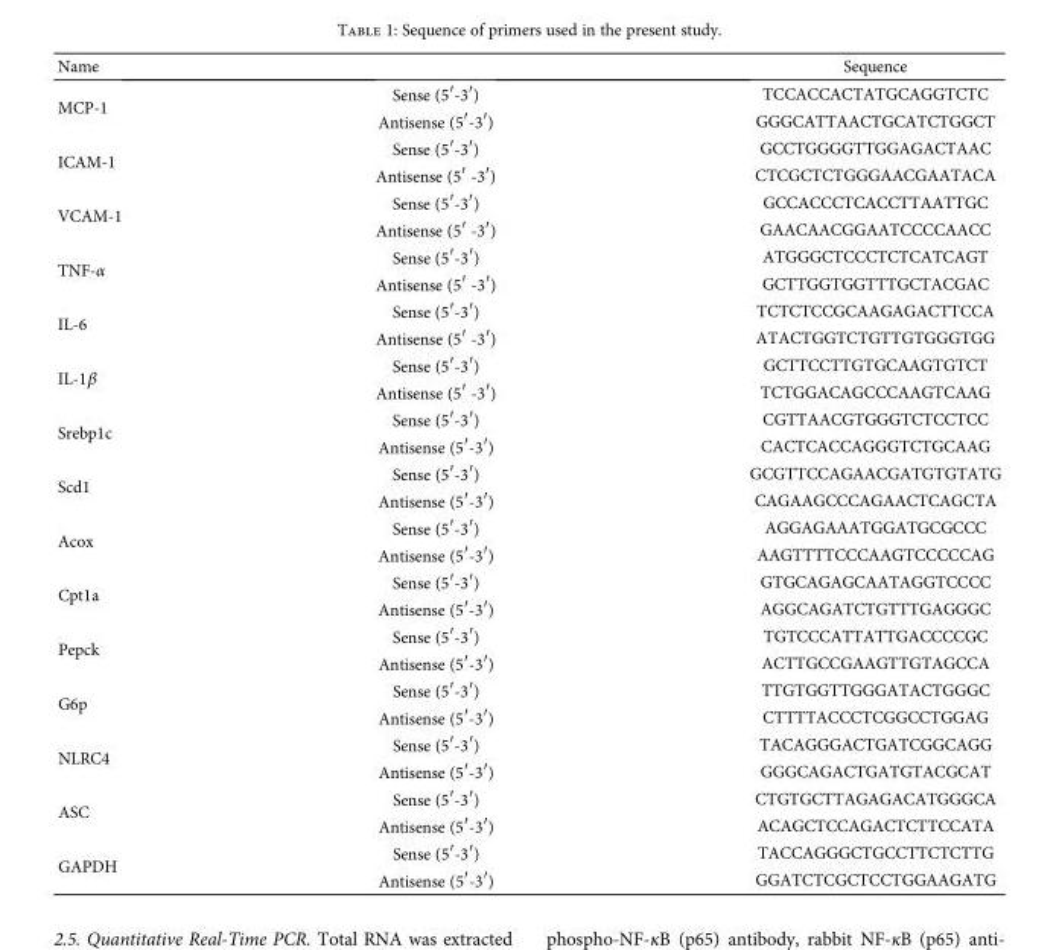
<table><thead><tr><td>Name</td><td></td><td>Sequence</td></tr></thead><tbody><tr><td rowspan="2">MCP-1</td><td>Sense (5′-3′)</td><td>TCCACCACTATGCAGGTCTC</td></tr><tr><td>Antisense (5′-3′)</td><td>GGGCATTAACTGCATCTGGCT</td></tr><tr><td rowspan="2">ICAM-1</td><td>Sense (5′-3′)</td><td>GCCTGGGGTTGGAGACTAAC</td></tr><tr><td>Antisense (5′ -3′)</td><td>CTCGCTCTGGGAACGAATACA</td></tr><tr><td rowspan="2">VCAM-1</td><td>Sense (5′-3′)</td><td>GCCACCCTCACCTTAATTGC</td></tr><tr><td>Antisense (5′ -3′)</td><td>GAACAACGGAATCCCCAACC</td></tr><tr><td rowspan="2">TNF-α</td><td>Sense (5′-3′)</td><td>ATGGGCTCCCTCTCATCAGT</td></tr><tr><td>Antisense (5′ -3′)</td><td>GCTTGGTGGTTTGCTACGAC</td></tr><tr><td rowspan="2">IL-6</td><td>Sense (5′-3′)</td><td>TCTCTCCGCAAGAGACTTCCA</td></tr><tr><td>Antisense (5′ -3′)</td><td>ATACTGGTCTGTTGTGGGTGG</td></tr><tr><td rowspan="2">IL-1β</td><td>Sense (5′-3′)</td><td>GCTTCCTTGTGCAAGTGTCT</td></tr><tr><td>Antisense (5′ -3′)</td><td>TCTGGACAGCCCAAGTCAAG</td></tr><tr><td rowspan="2">Srebp1c</td><td>Sense (5′-3′)</td><td>CGTTAACGTGGGTCTCCTCC</td></tr><tr><td>Antisense (5′-3′)</td><td>CACTCACCAGGGTCTGCAAG</td></tr><tr><td rowspan="2">Scd1</td><td>Sense (5′-3′)</td><td>GCGTTCCAGAACGATGTGTATG</td></tr><tr><td>Antisense (5′-3′)</td><td>CAGAAGCCCAGAACTCAGCTA</td></tr><tr><td rowspan="2">Acox</td><td>Sense (5′-3′)</td><td>AGGAGAAATGGATGCGCCC</td></tr><tr><td>Antisense (5′-3′)</td><td>AAGTTTTCCCAAGTCCCCCAG</td></tr><tr><td rowspan="2">Cpt1a</td><td>Sense (5′-3′)</td><td>GTGCAGAGCAATAGGTCCCC</td></tr><tr><td>Antisense (5′-3′)</td><td>AGGCAGATCTGTTTGAGGGC</td></tr><tr><td rowspan="2">Pepck</td><td>Sense (5′-3′)</td><td>TGTCCCATTATTGACCCCGC</td></tr><tr><td>Antisense (5′-3′)</td><td>ACTTGCCGAAGTTGTAGCCA</td></tr><tr><td rowspan="2">G6p</td><td>Sense (5′-3′)</td><td>TTGTGGTTGGGATACTGGGC</td></tr><tr><td>Antisense (5′-3′)</td><td>CTTTTACCCTCGGCCTGGAG</td></tr><tr><td rowspan="2">NLRC4</td><td>Sense (5′-3′)</td><td>TACAGGGACTGATCGGCAGG</td></tr><tr><td>Antisense (5′-3′)</td><td>GGGCAGACTGATGTACGCAT</td></tr><tr><td rowspan="2">ASC</td><td>Sense (5′-3′)</td><td>CTGTGCTTAGAGACATGGGCA</td></tr><tr><td>Antisense (5′-3′)</td><td>ACAGCTCCAGACTCTTCCATA</td></tr><tr><td rowspan="2">GAPDH</td><td>Sense (5′-3′)</td><td>TACCAGGGCTGCCTTCTCTTG</td></tr><tr><td>Antisense (5′-3′)</td><td>GGATCTCGCTCCTGGAAGATG</td></tr></tbody></table>